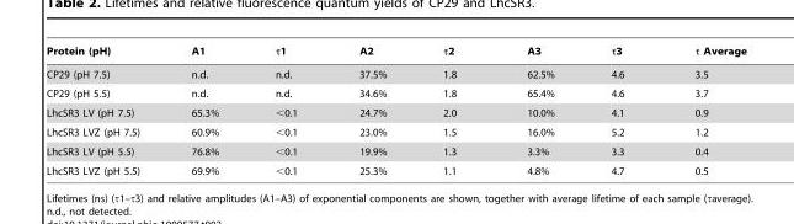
<table><thead><tr><td>Protein (pH)</td><td>A1</td><td>τ1</td><td>A2</td><td>τ2</td><td>A3</td><td>τ3</td><td>τ Average</td></tr></thead><tbody><tr><td>CP29 (pH 7.5)</td><td>n.d.</td><td>n.d.</td><td>37.5%</td><td>1.8</td><td>62.5%</td><td>4.6</td><td>3.5</td></tr><tr><td>CP29 (pH 5.5)</td><td>n.d.</td><td>n.d.</td><td>34.6%</td><td>1.8</td><td>65.4%</td><td>4.6</td><td>3.7</td></tr><tr><td>LhcSR3 LV (pH 7.5)</td><td>65.3%</td><td>&lt;0.1</td><td>24.7%</td><td>2.0</td><td>10.0%</td><td>4.1</td><td>0.9</td></tr><tr><td>LhcSR3 LVZ (pH 7.5)</td><td>60.9%</td><td>&lt;0.1</td><td>23.0%</td><td>1.5</td><td>16.0%</td><td>5.2</td><td>1.2</td></tr><tr><td>LhcSR3 LV (pH 5.5)</td><td>76.8%</td><td>&lt;0.1</td><td>19.9%</td><td>1.3</td><td>3.3%</td><td>3.3</td><td>0.4</td></tr><tr><td>LhcSR3 LVZ (pH 5.5)</td><td>69.9%</td><td>&lt;0.1</td><td>25.3%</td><td>1.1</td><td>4.8%</td><td>4.7</td><td>0.5</td></tr></tbody></table>